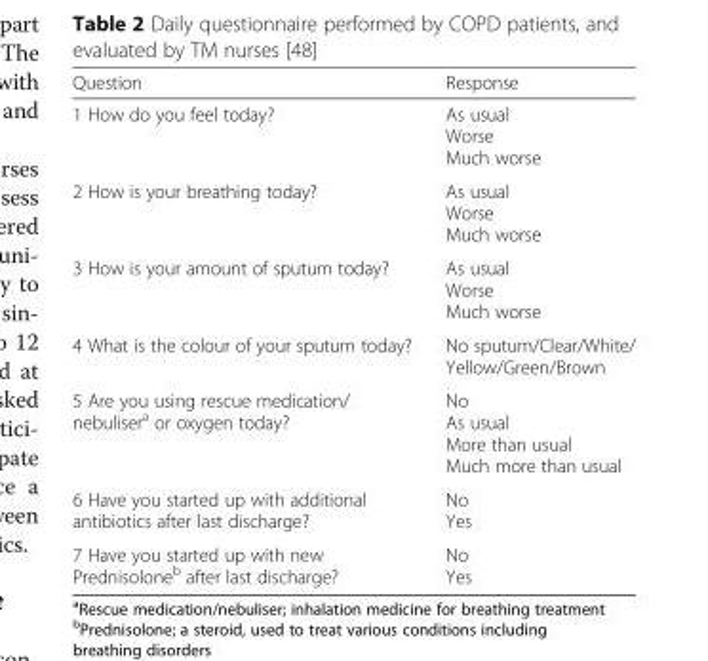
<table><thead><tr><td>Question</td><td>Response</td></tr></thead><tbody><tr><td>1 How do you feel today?</td><td>As usual Worse Much worse</td></tr><tr><td>2 How is your breathing today?</td><td>As usual Worse Much worse</td></tr><tr><td>3 How is your amount of sputum today?</td><td>As usual Worse Much worse</td></tr><tr><td>4 What is the colour of your sputum today?</td><td>No sputum/Clear/White/ Yellow/Green/Brown</td></tr><tr><td>5 Are you using rescue medication/ nebuliser<sup>a</sup> or oxygen today?</td><td>No As usual More than usual Much more than usual</td></tr><tr><td>6 Have you started up with additional antibiotics after last discharge?</td><td>No Yes</td></tr><tr><td>7 Have you started up with new Prednisolone<sup>b</sup> after last discharge?</td><td>No Yes</td></tr></tbody></table>